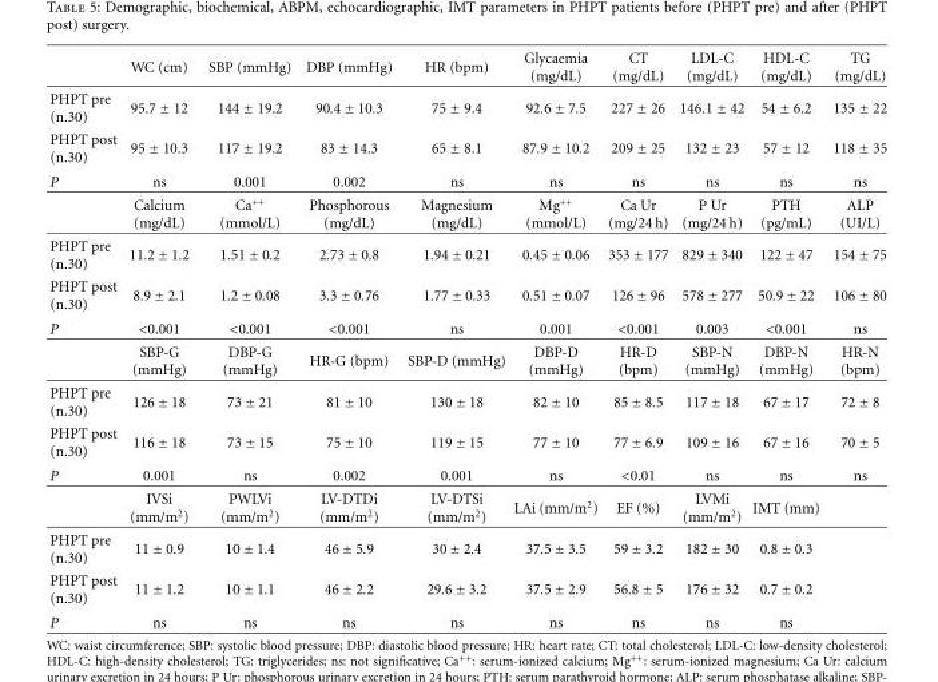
<table><thead><tr><td></td><td>WC (cm)</td><td>SBP (mmHg)</td><td>DBP (mmHg)</td><td>HR (bpm)</td><td>Glycaemia (mg/dL)</td><td>CT (mg/dL)</td><td>LDL-C (mg/dL)</td><td>HDL-C (mg/dL)</td><td>TG (mg/dL)</td></tr></thead><tbody><tr><td>PHPT pre (n.30)</td><td>95.7 ± 12</td><td>144 ± 19.2</td><td>90.4 ± 10.3</td><td>75 ± 9.4</td><td>92.6 ± 7.5</td><td>227 ± 26</td><td>146.1 ± 42</td><td>54 ± 6.2</td><td>135 ± 22</td></tr><tr><td>PHPT post (n.30)</td><td>95 ± 10.3</td><td>117 ± 19.2</td><td>83 ± 14.3</td><td>65 ± 8.1</td><td>87.9 ± 10.2</td><td>209 ± 25</td><td>132 ± 23</td><td>57 ± 12</td><td>118 ± 35</td></tr><tr><td rowspan="2">P</td><td>ns</td><td>0.001</td><td>0.002</td><td>ns</td><td>ns</td><td>ns</td><td>ns</td><td>ns</td><td>ns</td></tr><tr><td>Calcium (mg/dL)</td><td>Ca<sup>++</sup> (mmol/L)</td><td>Phosphorous (mg/dL)</td><td>Magnesium (mg/dL)</td><td>Mg<sup>++</sup> (mmol/L)</td><td>Ca Ur (mg/24 h)</td><td>P Ur (mg/24 h)</td><td>PTH (pg/mL)</td><td>ALP (UI/L)</td></tr><tr><td>PHPT pre (n.30)</td><td>11.2 ± 1.2</td><td>1.51 ± 0.2</td><td>2.73 ± 0.8</td><td>1.94 ± 0.21</td><td>0.45 ± 0.06</td><td>353 ± 177</td><td>829 ± 340</td><td>122 ± 47</td><td>154 ± 75</td></tr><tr><td>PHPT post (n.30)</td><td>8.9 ± 2.1</td><td>1.2 ± 0.08</td><td>3.3 ± 0.76</td><td>1.77 ± 0.33</td><td>0.51 ± 0.07</td><td>126 ± 96</td><td>578 ± 277</td><td>50.9 ± 22</td><td>106 ± 80</td></tr><tr><td rowspan="2">P</td><td>&lt;0.001</td><td>&lt;0.001</td><td>&lt;0.001</td><td>ns</td><td>0.001</td><td>&lt;0.001</td><td>0.003</td><td>&lt;0.001</td><td>ns</td></tr><tr><td>SBP-G (mmHg)</td><td>DBP-G (mmHg)</td><td>HR-G (bpm)</td><td>SBP-D (mmHg)</td><td>DBP-D (mmHg)</td><td>HR-D (bpm)</td><td>SBP-N (mmHg)</td><td>DBP-N (mmHg)</td><td>HR-N (bpm)</td></tr><tr><td>PHPT pre (n.30)</td><td>126 ± 18</td><td>73 ± 21</td><td>81 ± 10</td><td>130 ± 18</td><td>82 ± 10</td><td>85 ± 8.5</td><td>117 ± 18</td><td>67 ± 17</td><td>72 ± 8</td></tr><tr><td>PHPT post (n.30)</td><td>116 ± 18</td><td>73 ± 15</td><td>75 ± 10</td><td>119 ± 15</td><td>77 ± 10</td><td>77 ± 6.9</td><td>109 ± 16</td><td>67 ± 16</td><td>70 ± 5</td></tr><tr><td rowspan="2">P</td><td>0.001</td><td>ns</td><td>0.002</td><td>0.001</td><td>ns</td><td>&lt;0.01</td><td>ns</td><td>ns</td><td>ns</td></tr><tr><td>IVSi (mm/m<sup>2</sup>)</td><td>PWLVi (mm/m<sup>2</sup>)</td><td>LV-DTDi (mm/m<sup>2</sup>)</td><td>LV-DTSi (mm/m<sup>2</sup>)</td><td>LAi (mm/m<sup>2</sup>)</td><td>EF (%)</td><td>LVMi (mm/m<sup>2</sup>)</td><td>IMT (mm)</td><td></td></tr><tr><td>PHPT pre (n.30)</td><td>11 ± 0.9</td><td>10 ± 1.4</td><td>46 ± 5.9</td><td>30 ± 2.4</td><td>37.5 ± 3.5</td><td>59 ± 3.2</td><td>182 ± 30</td><td>0.8 ± 0.3</td><td></td></tr><tr><td>PHPT post (n.30)</td><td>11 ± 1.2</td><td>10 ± 1.1</td><td>46 ± 2.2</td><td>29.6 ± 3.2</td><td>37.5 ± 2.9</td><td>56.8 ± 5</td><td>176 ± 32</td><td>0.7 ± 0.2</td><td></td></tr><tr><td>P</td><td>ns</td><td>ns</td><td>ns</td><td>ns</td><td>ns</td><td>ns</td><td>ns</td><td>ns</td><td></td></tr></tbody></table>